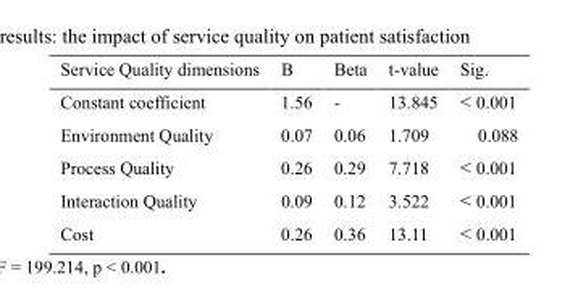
<table><thead><tr><td>Service Quality dimensions</td><td>B</td><td>Beta</td><td>t-value</td><td>Sig.</td></tr></thead><tbody><tr><td>Constant coefficient</td><td>1.56</td><td>-</td><td>13.845</td><td>&lt; 0.001</td></tr><tr><td>Environment Quality</td><td>0.07</td><td>0.06</td><td>1.709</td><td>0.088</td></tr><tr><td>Process Quality</td><td>0.26</td><td>0.29</td><td>7.718</td><td>&lt; 0.001</td></tr><tr><td>Interaction Quality</td><td>0.09</td><td>0.12</td><td>3.522</td><td>&lt; 0.001</td></tr><tr><td>Cost</td><td>0.26</td><td>0.36</td><td>13.11</td><td>&lt; 0.001</td></tr></tbody></table>